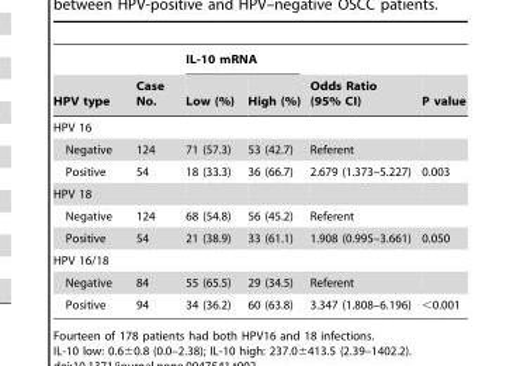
<table><thead><tr><td rowspan="2">HPV type</td><td rowspan="2">Case No.</td><td colspan="2">IL-10 mRNA</td><td rowspan="2">Odds Ratio (95% CI)</td><td rowspan="2">P value</td></tr><tr><td>Low (%)</td><td>High (%)</td></tr></thead><tbody><tr><td colspan="6">HPV 16</td></tr><tr><td>Negative</td><td>124</td><td>71 (57.3)</td><td>53 (42.7)</td><td>Referent</td><td></td></tr><tr><td>Positive</td><td>54</td><td>18 (33.3)</td><td>36 (66.7)</td><td>2.679 (1.373–5.227)</td><td>0.003</td></tr><tr><td colspan="6">HPV 18</td></tr><tr><td>Negative</td><td>124</td><td>68 (54.8)</td><td>56 (45.2)</td><td>Referent</td><td></td></tr><tr><td>Positive</td><td>54</td><td>21 (38.9)</td><td>33 (61.1)</td><td>1.908 (0.995–3.661)</td><td>0.050</td></tr><tr><td colspan="6">HPV 16/18</td></tr><tr><td>Negative</td><td>84</td><td>55 (65.5)</td><td>29 (34.5)</td><td>Referent</td><td></td></tr><tr><td>Positive</td><td>94</td><td>34 (36.2)</td><td>60 (63.8)</td><td>3.347 (1.808–6.196)</td><td>&lt;0.001</td></tr></tbody></table>